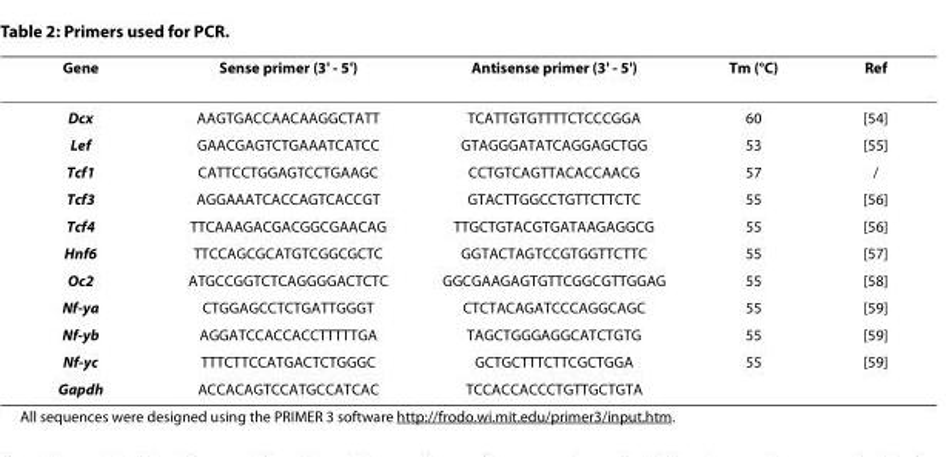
<table><thead><tr><td>Gene</td><td>Sense primer (3&#x27; - 5&#x27;)</td><td>Antisense primer (3&#x27; - 5&#x27;)</td><td>Tm (°C)</td><td>Ref</td></tr></thead><tbody><tr><td>Dcx</td><td>AAGTGACCAACAAGGCTATT</td><td>TCATTGTGTTTTCTCCCGGA</td><td>60</td><td>[54]</td></tr><tr><td>Lef</td><td>GAACGAGTCTGAAATCATCC</td><td>GTAGGGATATCAGGAGCTGG</td><td>53</td><td>[55]</td></tr><tr><td>Tcf1</td><td>CATTCCTGGAGTCCTGAAGC</td><td>CCTGTCAGTTACACCAACG</td><td>57</td><td>/</td></tr><tr><td>Tcf3</td><td>AGGAAATCACCAGTCACCGT</td><td>GTACTTGGCCTGTTCTTCTC</td><td>55</td><td>[56]</td></tr><tr><td>Tcf4</td><td>TTCAAAGACGACGGCGAACAG</td><td>TTGCTGTACGTGATAAGAGGCG</td><td>55</td><td>[56]</td></tr><tr><td>Hnf6</td><td>TTCCAGCGCATGTCGGCGCTC</td><td>GGTACTAGTCCGTGGTTCTTC</td><td>55</td><td>[57]</td></tr><tr><td>Oc2</td><td>ATGCCGGTCTCAGGGGACTCTC</td><td>GGCGAAGAGTGTTCGGCGTTGGAG</td><td>55</td><td>[58]</td></tr><tr><td>Nf-ya</td><td>CTGGAGCCTCTGATTGGGT</td><td>CTCTACAGATCCCAGGCAGC</td><td>55</td><td>[59]</td></tr><tr><td>Nf-yb</td><td>AGGATCCACCACCTTTTTGA</td><td>TAGCTGGGAGGCATCTGTG</td><td>55</td><td>[59]</td></tr><tr><td>Nf-yc</td><td>TTTCTTCCATGACTCTGGGC</td><td>GCTGCTTTCTTCGCTGGA</td><td>55</td><td>[59]</td></tr><tr><td>Gapdh</td><td>ACCACAGTCCATGCCATCAC</td><td>TCCACCACCCTGTTGCTGTA</td><td></td><td></td></tr></tbody></table>